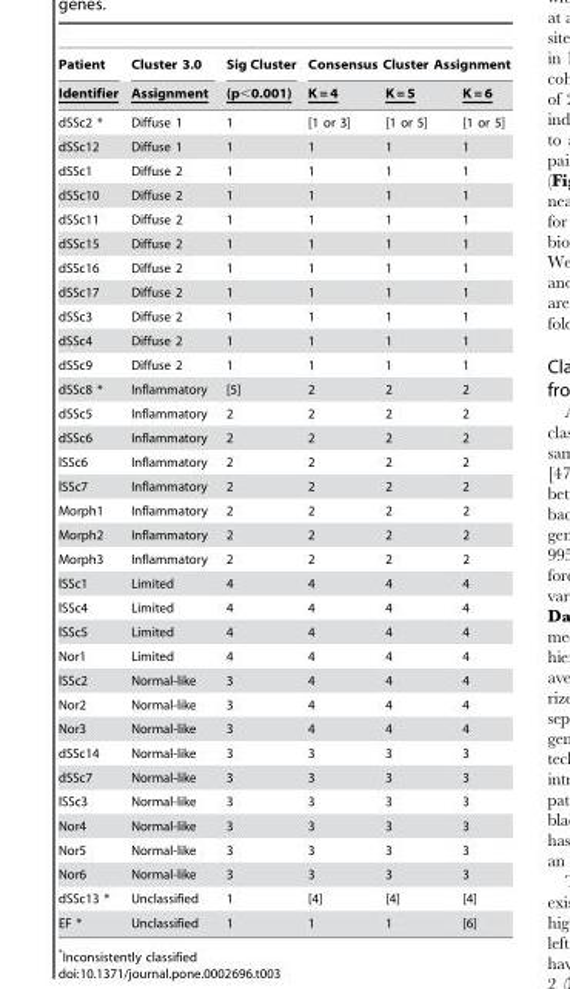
<table><thead><tr><td rowspan="2">Patient Identifier</td><td rowspan="2">Cluster 3.0 Assignment</td><td rowspan="2">Sig Cluster (p&lt;0.001)</td><td colspan="3">Consensus Cluster Assignment</td></tr><tr><td>K = 4</td><td>K = 5</td><td>K = 6</td></tr></thead><tbody><tr><td>dSSc2 *</td><td>Diffuse 1</td><td>1</td><td>[1 or 3]</td><td>[1 or 5]</td><td>[1 or 5]</td></tr><tr><td>dSSc12</td><td>Diffuse 1</td><td>1</td><td>1</td><td>1</td><td>1</td></tr><tr><td>dSSc1</td><td>Diffuse 2</td><td>1</td><td>1</td><td>1</td><td>1</td></tr><tr><td>dSSc10</td><td>Diffuse 2</td><td>1</td><td>1</td><td>1</td><td>1</td></tr><tr><td>dSSc11</td><td>Diffuse 2</td><td>1</td><td>1</td><td>1</td><td>1</td></tr><tr><td>dSSc15</td><td>Diffuse 2</td><td>1</td><td>1</td><td>1</td><td>1</td></tr><tr><td>dSSc16</td><td>Diffuse 2</td><td>1</td><td>1</td><td>1</td><td>1</td></tr><tr><td>dSSc17</td><td>Diffuse 2</td><td>1</td><td>1</td><td>1</td><td>1</td></tr><tr><td>dSSc3</td><td>Diffuse 2</td><td>1</td><td>1</td><td>1</td><td>1</td></tr><tr><td>dSSc4</td><td>Diffuse 2</td><td>1</td><td>1</td><td>1</td><td>1</td></tr><tr><td>dSSc9</td><td>Diffuse 2</td><td>1</td><td>1</td><td>1</td><td>1</td></tr><tr><td>dSSc8 *</td><td>Inflammatory</td><td>[5]</td><td>2</td><td>2</td><td>2</td></tr><tr><td>dSSc5</td><td>Inflammatory</td><td>2</td><td>2</td><td>2</td><td>2</td></tr><tr><td>dSSc6</td><td>Inflammatory</td><td>2</td><td>2</td><td>2</td><td>2</td></tr><tr><td>lSSc6</td><td>Inflammatory</td><td>2</td><td>2</td><td>2</td><td>2</td></tr><tr><td>lSSc7</td><td>Inflammatory</td><td>2</td><td>2</td><td>2</td><td>2</td></tr><tr><td>Morph1</td><td>Inflammatory</td><td>2</td><td>2</td><td>2</td><td>2</td></tr><tr><td>Morph2</td><td>Inflammatory</td><td>2</td><td>2</td><td>2</td><td>2</td></tr><tr><td>Morph3</td><td>Inflammatory</td><td>2</td><td>2</td><td>2</td><td>2</td></tr><tr><td>lSSc1</td><td>Limited</td><td>4</td><td>4</td><td>4</td><td>4</td></tr><tr><td>lSSc4</td><td>Limited</td><td>4</td><td>4</td><td>4</td><td>4</td></tr><tr><td>lSSc5</td><td>Limited</td><td>4</td><td>4</td><td>4</td><td>4</td></tr><tr><td>Nor1</td><td>Limited</td><td>4</td><td>4</td><td>4</td><td>4</td></tr><tr><td>lSSc2</td><td>Normal-like</td><td>3</td><td>4</td><td>4</td><td>4</td></tr><tr><td>Nor2</td><td>Normal-like</td><td>3</td><td>4</td><td>4</td><td>4</td></tr><tr><td>Nor3</td><td>Normal-like</td><td>3</td><td>4</td><td>4</td><td>4</td></tr><tr><td>dSSc14</td><td>Normal-like</td><td>3</td><td>3</td><td>3</td><td>3</td></tr><tr><td>dSSc7</td><td>Normal-like</td><td>3</td><td>3</td><td>3</td><td>3</td></tr><tr><td>lSSc3</td><td>Normal-like</td><td>3</td><td>3</td><td>3</td><td>3</td></tr><tr><td>Nor4</td><td>Normal-like</td><td>3</td><td>3</td><td>3</td><td>3</td></tr><tr><td>Nor5</td><td>Normal-like</td><td>3</td><td>3</td><td>3</td><td>3</td></tr><tr><td>Nor6</td><td>Normal-like</td><td>3</td><td>3</td><td>3</td><td>3</td></tr><tr><td>dSSc13 *</td><td>Unclassified</td><td>1</td><td>[4]</td><td>[4]</td><td>[4]</td></tr><tr><td>EF *</td><td>Unclassified</td><td>1</td><td>1</td><td>1</td><td>[6]</td></tr></tbody></table>